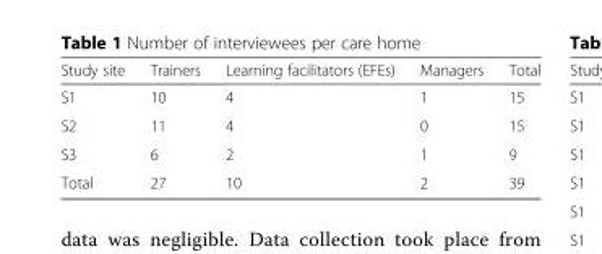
<table><thead><tr><td>Study site</td><td>Trainers</td><td>Learning facilitators (EFEs)</td><td>Managers</td><td>Total</td></tr></thead><tbody><tr><td>S1</td><td>10</td><td>4</td><td>1</td><td>15</td></tr><tr><td>S2</td><td>11</td><td>4</td><td>0</td><td>15</td></tr><tr><td>S3</td><td>6</td><td>2</td><td>1</td><td>9</td></tr><tr><td>Total</td><td>27</td><td>10</td><td>2</td><td>39</td></tr></tbody></table>